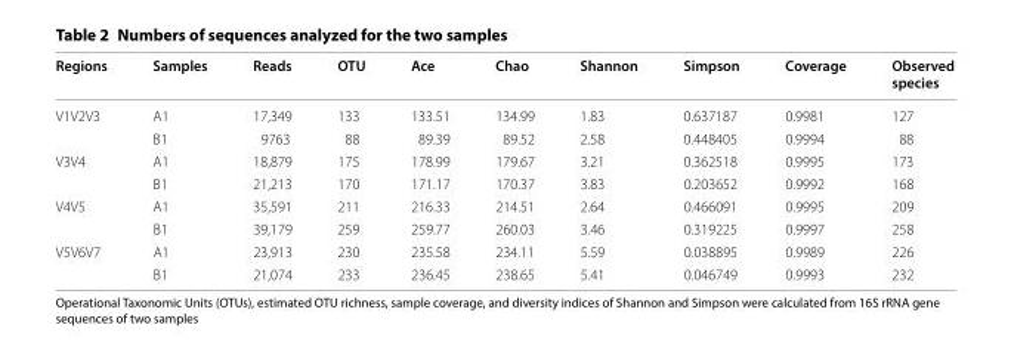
<table><thead><tr><td>Regions</td><td>Samples</td><td>Reads</td><td>OTU</td><td>Ace</td><td>Chao</td><td>Shannon</td><td>Simpson</td><td>Coverage</td><td>Observed species</td></tr></thead><tbody><tr><td rowspan="2">V1V2V3</td><td>A1</td><td>17,349</td><td>133</td><td>133.51</td><td>134.99</td><td>1.83</td><td>0.637187</td><td>0.9981</td><td>127</td></tr><tr><td>B1</td><td>9763</td><td>88</td><td>89.39</td><td>89.52</td><td>2.58</td><td>0.448405</td><td>0.9994</td><td>88</td></tr><tr><td rowspan="2">V3V4</td><td>A1</td><td>18,879</td><td>175</td><td>178.99</td><td>179.67</td><td>3.21</td><td>0.362518</td><td>0.9995</td><td>173</td></tr><tr><td>B1</td><td>21,213</td><td>170</td><td>171.17</td><td>170.37</td><td>3.83</td><td>0.203652</td><td>0.9992</td><td>168</td></tr><tr><td rowspan="2">V4V5</td><td>A1</td><td>35,591</td><td>211</td><td>216.33</td><td>214.51</td><td>2.64</td><td>0.466091</td><td>0.9995</td><td>209</td></tr><tr><td>B1</td><td>39,179</td><td>259</td><td>259.77</td><td>260.03</td><td>3.46</td><td>0.319225</td><td>0.9997</td><td>258</td></tr><tr><td rowspan="2">V5V6V7</td><td>A1</td><td>23,913</td><td>230</td><td>235.58</td><td>234.11</td><td>5.59</td><td>0.038895</td><td>0.9989</td><td>226</td></tr><tr><td>B1</td><td>21,074</td><td>233</td><td>236.45</td><td>238.65</td><td>5.41</td><td>0.046749</td><td>0.9993</td><td>232</td></tr></tbody></table>